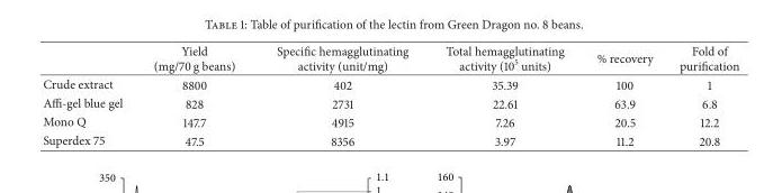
<table><thead><tr><td></td><td>Yield (mg/70 g beans)</td><td>Specific hemagglutinating activity (unit/mg)</td><td>Total hemagglutinating activity (10<sup>5</sup> units)</td><td>% recovery</td><td>Fold of purification</td></tr></thead><tbody><tr><td>Crude extract</td><td>8800</td><td>402</td><td>35.39</td><td>100</td><td>1</td></tr><tr><td>Affi-gel blue gel</td><td>828</td><td>2731</td><td>22.61</td><td>63.9</td><td>6.8</td></tr><tr><td>Mono Q</td><td>147.7</td><td>4915</td><td>7.26</td><td>20.5</td><td>12.2</td></tr><tr><td>Superdex 75</td><td>47.5</td><td>8356</td><td>3.97</td><td>11.2</td><td>20.8</td></tr></tbody></table>